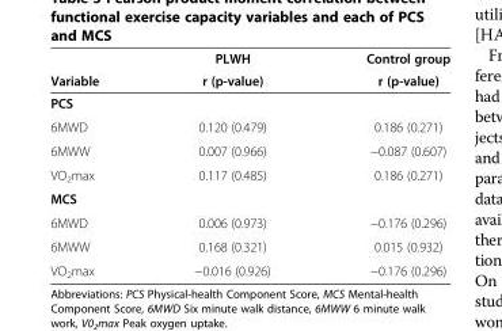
<table><thead><tr><td rowspan="2">Variable</td><td rowspan="2">PLWH r (p-value)</td><td rowspan="2">Control group r (p-value)</td></tr><tr></tr></thead><tbody><tr><td colspan="3">PCS</td></tr><tr><td>6MWD</td><td>0.120 (0.479)</td><td>0.186 (0.271)</td></tr><tr><td>6MWW</td><td>0.007 (0.966)</td><td>−0.087 (0.607)</td></tr><tr><td>VO<sub>2</sub>max</td><td>0.117 (0.485)</td><td>0.186 (0.271)</td></tr><tr><td colspan="3">MCS</td></tr><tr><td>6MWD</td><td>0.006 (0.973)</td><td>−0.176 (0.296)</td></tr><tr><td>6MWW</td><td>0.168 (0.321)</td><td>0.015 (0.932)</td></tr><tr><td>VO<sub>2</sub>max</td><td>−0.016 (0.926)</td><td>−0.176 (0.296)</td></tr></tbody></table>